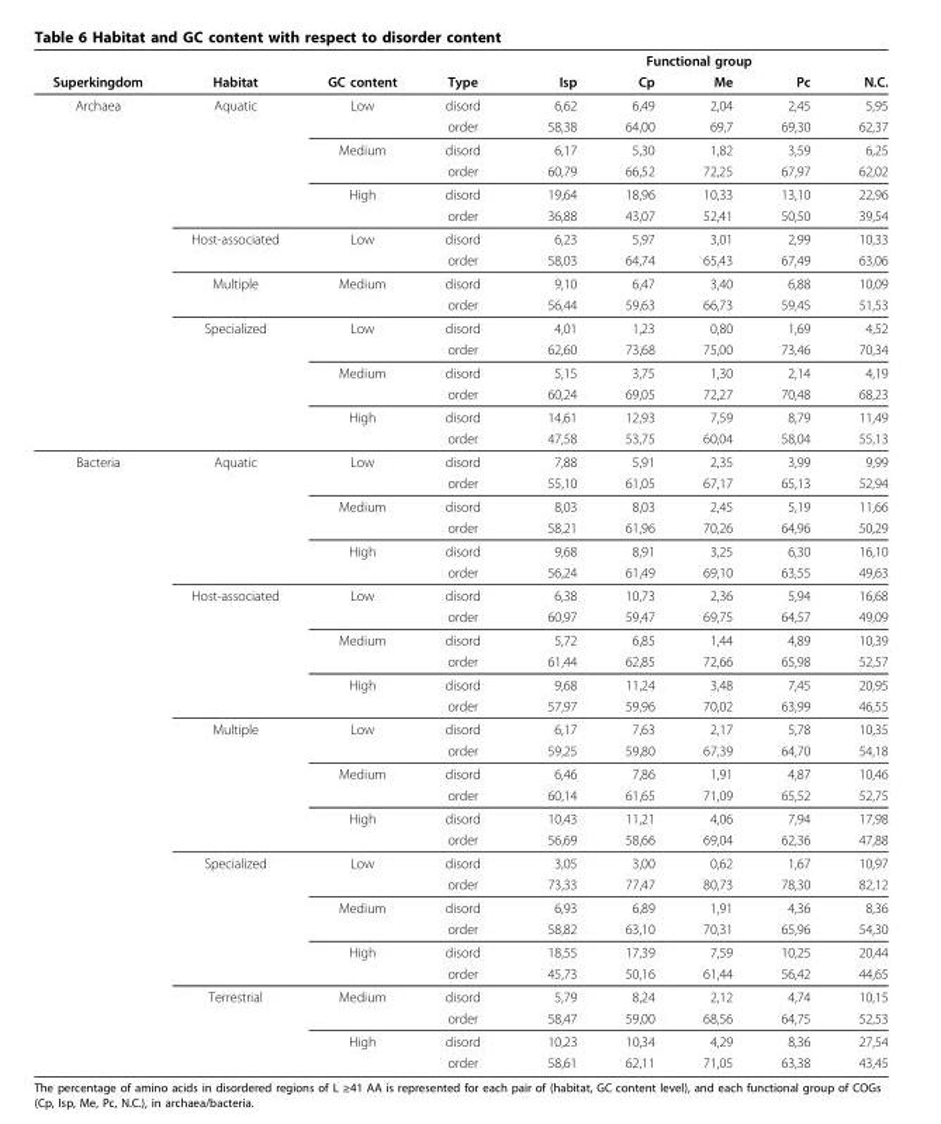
<table><thead><tr><td rowspan="2">Superkingdom</td><td rowspan="2">Habitat</td><td rowspan="2">GC content</td><td rowspan="2">Type</td><td colspan="5">Functional group</td></tr><tr><td>Isp</td><td>Cp</td><td>Me</td><td>Pc</td><td>N.C.</td></tr></thead><tbody><tr><td rowspan="16">Archaea</td><td>Aquatic</td><td>Low</td><td>disord</td><td>6,62</td><td>6,49</td><td>2,04</td><td>2,45</td><td>5,95</td></tr><tr><td></td><td></td><td>order</td><td>58,38</td><td>64,00</td><td>69,7</td><td>69,30</td><td>62,37</td></tr><tr><td></td><td>Medium</td><td>disord</td><td>6,17</td><td>5,30</td><td>1,82</td><td>3,59</td><td>6,25</td></tr><tr><td></td><td></td><td>order</td><td>60,79</td><td>66,52</td><td>72,25</td><td>67,97</td><td>62,02</td></tr><tr><td></td><td>High</td><td>disord</td><td>19,64</td><td>18,96</td><td>10,33</td><td>13,10</td><td>22,96</td></tr><tr><td></td><td></td><td>order</td><td>36,88</td><td>43,07</td><td>52,41</td><td>50,50</td><td>39,54</td></tr><tr><td>Host-associated</td><td>Low</td><td>disord</td><td>6,23</td><td>5,97</td><td>3,01</td><td>2,99</td><td>10,33</td></tr><tr><td></td><td></td><td>order</td><td>58,03</td><td>64,74</td><td>65,43</td><td>67,49</td><td>63,06</td></tr><tr><td>Multiple</td><td>Medium</td><td>disord</td><td>9,10</td><td>6,47</td><td>3,40</td><td>6,88</td><td>10,09</td></tr><tr><td></td><td></td><td>order</td><td>56,44</td><td>59,63</td><td>66,73</td><td>59,45</td><td>51,53</td></tr><tr><td>Specialized</td><td>Low</td><td>disord</td><td>4,01</td><td>1,23</td><td>0,80</td><td>1,69</td><td>4,52</td></tr><tr><td></td><td></td><td>order</td><td>62,60</td><td>73,68</td><td>75,00</td><td>73,46</td><td>70,34</td></tr><tr><td></td><td>Medium</td><td>disord</td><td>5,15</td><td>3,75</td><td>1,30</td><td>2,14</td><td>4,19</td></tr><tr><td></td><td></td><td>order</td><td>60,24</td><td>69,05</td><td>72,27</td><td>70,48</td><td>68,23</td></tr><tr><td></td><td>High</td><td>disord</td><td>14,61</td><td>12,93</td><td>7,59</td><td>8,79</td><td>11,49</td></tr><tr><td></td><td></td><td>order</td><td>47,58</td><td>53,75</td><td>60,04</td><td>58,04</td><td>55,13</td></tr><tr><td rowspan="28">Bacteria</td><td>Aquatic</td><td>Low</td><td>disord</td><td>7,88</td><td>5,91</td><td>2,35</td><td>3,99</td><td>9,99</td></tr><tr><td></td><td></td><td>order</td><td>55,10</td><td>61,05</td><td>67,17</td><td>65,13</td><td>52,94</td></tr><tr><td></td><td>Medium</td><td>disord</td><td>8,03</td><td>8,03</td><td>2,45</td><td>5,19</td><td>11,66</td></tr><tr><td></td><td></td><td>order</td><td>58,21</td><td>61,96</td><td>70,26</td><td>64,96</td><td>50,29</td></tr><tr><td></td><td>High</td><td>disord</td><td>9,68</td><td>8,91</td><td>3,25</td><td>6,30</td><td>16,10</td></tr><tr><td></td><td></td><td>order</td><td>56,24</td><td>61,49</td><td>69,10</td><td>63,55</td><td>49,63</td></tr><tr><td>Host-associated</td><td>Low</td><td>disord</td><td>6,38</td><td>10,73</td><td>2,36</td><td>5,94</td><td>16,68</td></tr><tr><td></td><td></td><td>order</td><td>60,97</td><td>59,47</td><td>69,75</td><td>64,57</td><td>49,09</td></tr><tr><td></td><td>Medium</td><td>disord</td><td>5,72</td><td>6,85</td><td>1,44</td><td>4,89</td><td>10,39</td></tr><tr><td></td><td></td><td>order</td><td>61,44</td><td>62,85</td><td>72,66</td><td>65,98</td><td>52,57</td></tr><tr><td></td><td>High</td><td>disord</td><td>9,68</td><td>11,24</td><td>3,48</td><td>7,45</td><td>20,95</td></tr><tr><td></td><td></td><td>order</td><td>57,97</td><td>59,96</td><td>70,02</td><td>63,99</td><td>46,55</td></tr><tr><td>Multiple</td><td>Low</td><td>disord</td><td>6,17</td><td>7,63</td><td>2,17</td><td>5,78</td><td>10,35</td></tr><tr><td></td><td></td><td>order</td><td>59,25</td><td>59,80</td><td>67,39</td><td>64,70</td><td>54,18</td></tr><tr><td></td><td>Medium</td><td>disord</td><td>6,46</td><td>7,86</td><td>1,91</td><td>4,87</td><td>10,46</td></tr><tr><td></td><td></td><td>order</td><td>60,14</td><td>61,65</td><td>71,09</td><td>65,52</td><td>52,75</td></tr><tr><td></td><td>High</td><td>disord</td><td>10,43</td><td>11,21</td><td>4,06</td><td>7,94</td><td>17,98</td></tr><tr><td></td><td></td><td>order</td><td>56,69</td><td>58,66</td><td>69,04</td><td>62,36</td><td>47,88</td></tr><tr><td>Specialized</td><td>Low</td><td>disord</td><td>3,05</td><td>3,00</td><td>0,62</td><td>1,67</td><td>10,97</td></tr><tr><td></td><td></td><td>order</td><td>73,33</td><td>77,47</td><td>80,73</td><td>78,30</td><td>82,12</td></tr><tr><td></td><td>Medium</td><td>disord</td><td>6,93</td><td>6,89</td><td>1,91</td><td>4,36</td><td>8,36</td></tr><tr><td></td><td></td><td>order</td><td>58,82</td><td>63,10</td><td>70,31</td><td>65,96</td><td>54,30</td></tr><tr><td></td><td>High</td><td>disord</td><td>18,55</td><td>17,39</td><td>7,59</td><td>10,25</td><td>20,44</td></tr><tr><td></td><td></td><td>order</td><td>45,73</td><td>50,16</td><td>61,44</td><td>56,42</td><td>44,65</td></tr><tr><td>Terrestrial</td><td>Medium</td><td>disord</td><td>5,79</td><td>8,24</td><td>2,12</td><td>4,74</td><td>10,15</td></tr><tr><td></td><td></td><td>order</td><td>58,47</td><td>59,00</td><td>68,56</td><td>64,75</td><td>52,53</td></tr><tr><td></td><td>High</td><td>disord</td><td>10,23</td><td>10,34</td><td>4,29</td><td>8,36</td><td>27,54</td></tr><tr><td></td><td></td><td>order</td><td>58,61</td><td>62,11</td><td>71,05</td><td>63,38</td><td>43,45</td></tr></tbody></table>